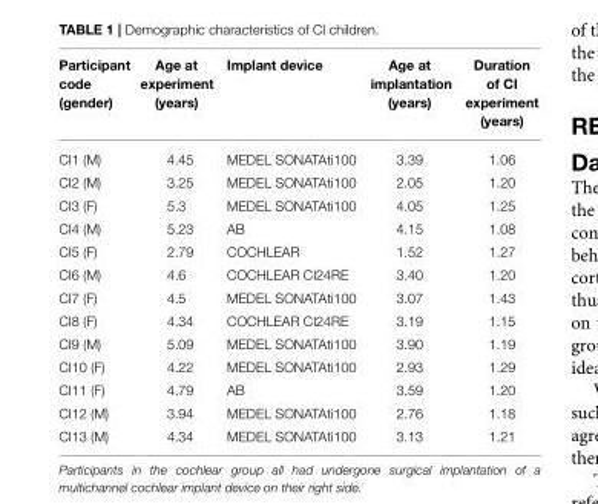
<table><thead><tr><td>Participant code (gender)</td><td>Age at experiment (years)</td><td>Implant device</td><td>Age at implantation (years)</td><td>Duration of CI experiment (years)</td></tr></thead><tbody><tr><td>CI1 (M)</td><td>4.45</td><td>MEDEL SONATAti100</td><td>3.39</td><td>1.06</td></tr><tr><td>CI2 (M)</td><td>3.25</td><td>MEDEL SONATAti100</td><td>2.05</td><td>1.20</td></tr><tr><td>CI3 (F)</td><td>5.3</td><td>MEDEL SONATAti100</td><td>4.05</td><td>1.25</td></tr><tr><td>CI4 (M)</td><td>5.23</td><td>AB</td><td>4.15</td><td>1.08</td></tr><tr><td>CI5 (F)</td><td>2.79</td><td>COCHLEAR</td><td>1.52</td><td>1.27</td></tr><tr><td>CI6 (M)</td><td>4.6</td><td>COCHLEAR CI24RE</td><td>3.40</td><td>1.20</td></tr><tr><td>CI7 (F)</td><td>4.5</td><td>MEDEL SONATAti100</td><td>3.07</td><td>1.43</td></tr><tr><td>CI8 (F)</td><td>4.34</td><td>COCHLEAR CI24RE</td><td>3.19</td><td>1.15</td></tr><tr><td>CI9 (M)</td><td>5.09</td><td>MEDEL SONATAti100</td><td>3.90</td><td>1.19</td></tr><tr><td>CI10 (F)</td><td>4.22</td><td>MEDEL SONATAti100</td><td>2.93</td><td>1.29</td></tr><tr><td>CI11 (F)</td><td>4.79</td><td>AB</td><td>3.59</td><td>1.20</td></tr><tr><td>CI12 (M)</td><td>3.94</td><td>MEDEL SONATAti100</td><td>2.76</td><td>1.18</td></tr><tr><td>CI13 (M)</td><td>4.34</td><td>MEDEL SONATAti100</td><td>3.13</td><td>1.21</td></tr></tbody></table>